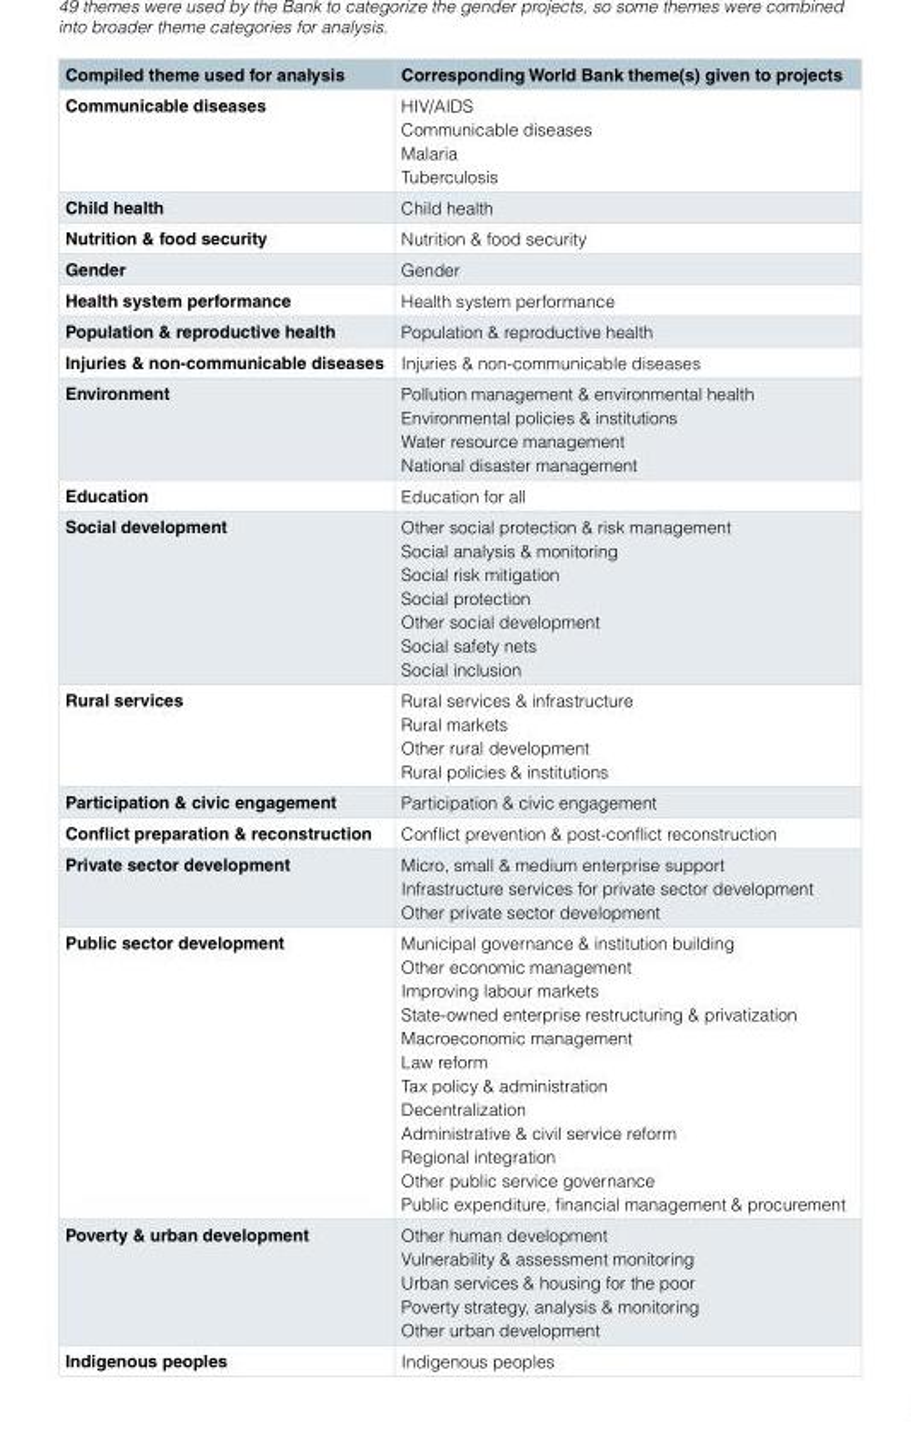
<table><thead><tr><td>Compiled theme used for analysis</td><td>Corresponding World Bank theme(s) given to projects</td></tr></thead><tbody><tr><td>Communicable diseases</td><td>HIV/AIDS Communicable diseases Malaria Tuberculosis</td></tr><tr><td>Child health</td><td>Child health</td></tr><tr><td>Nutrition &amp; food security</td><td>Nutrition &amp; food security</td></tr><tr><td>Gender</td><td>Gender</td></tr><tr><td>Health system performance</td><td>Health system performance</td></tr><tr><td>Population &amp; reproductive health</td><td>Population &amp; reproductive health</td></tr><tr><td>Injuries &amp; non-communicable diseases</td><td>Injuries &amp; non-communicable diseases</td></tr><tr><td>Environment</td><td>Pollution management &amp; environmental health Environmental policies &amp; institutions Water resource management National disaster management</td></tr><tr><td>Education</td><td>Education for all</td></tr><tr><td>Social development</td><td>Other social protection &amp; risk management Social analysis &amp; monitoring Social risk mitigation Social protection Other social development Social safety nets Social inclusion</td></tr><tr><td>Rural services</td><td>Rural services &amp; infrastructure Rural markets Other rural development Rural policies &amp; institutions</td></tr><tr><td>Participation &amp; civic engagement</td><td>Participation &amp; civic engagement</td></tr><tr><td>Conflict preparation &amp; reconstruction</td><td>Conflict prevention &amp; post-conflict reconstruction</td></tr><tr><td>Private sector development</td><td>Micro, small &amp; medium enterprise support Infrastructure services for private sector development Other private sector development</td></tr><tr><td>Public sector development</td><td>Municipal governance &amp; institution building Other economic management Improving labour markets State-owned enterprise restructuring &amp; privatization Macroeconomic management Law reform Tax policy &amp; administration Decentralization Administrative &amp; civil service reform Regional integration Other public service governance Public expenditure, financial management &amp; procurement</td></tr><tr><td>Poverty &amp; urban development</td><td>Other human development Vulnerability &amp; assessment monitoring Urban services &amp; housing for the poor Poverty strategy, analysis &amp; monitoring Other urban development</td></tr><tr><td>Indigenous peoples</td><td>Indigenous peoples</td></tr></tbody></table>